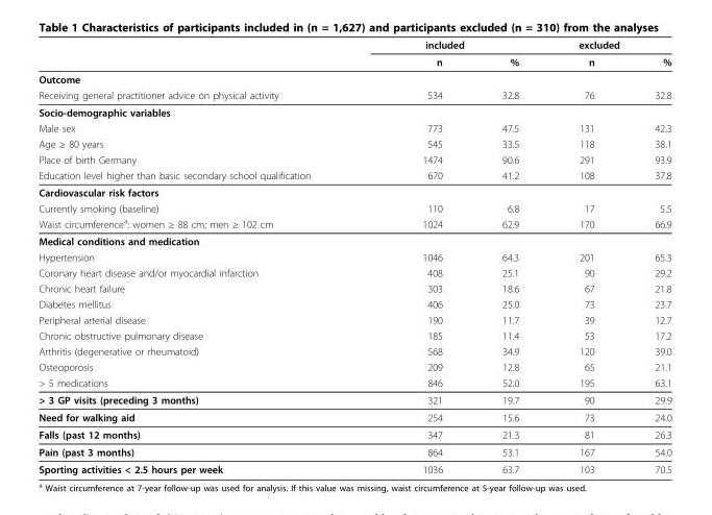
<table><thead><tr><td rowspan="2"></td><td colspan="2">included</td><td colspan="2">excluded</td></tr><tr><td>n</td><td>%</td><td>n</td><td>%</td></tr></thead><tbody><tr><td colspan="5">Outcome</td></tr><tr><td>Receiving general practitioner advice on physical activity</td><td>534</td><td>32.8</td><td>76</td><td>32.8</td></tr><tr><td colspan="5">Socio-demographic variables</td></tr><tr><td>Male sex</td><td>773</td><td>47.5</td><td>131</td><td>42.3</td></tr><tr><td>Age ≥ 80 years</td><td>545</td><td>33.5</td><td>118</td><td>38.1</td></tr><tr><td>Place of birth Germany</td><td>1474</td><td>90.6</td><td>291</td><td>93.9</td></tr><tr><td>Education level higher than basic secondary school qualification</td><td>670</td><td>41.2</td><td>108</td><td>37.8</td></tr><tr><td colspan="5">Cardiovascular risk factors</td></tr><tr><td>Currently smoking (baseline)</td><td>110</td><td>6.8</td><td>17</td><td>5.5</td></tr><tr><td>Waist circumference<sup>a</sup>: women ≥ 88 cm; men ≥ 102 cm</td><td>1024</td><td>62.9</td><td>170</td><td>66.9</td></tr><tr><td colspan="5">Medical conditions and medication</td></tr><tr><td>Hypertension</td><td>1046</td><td>64.3</td><td>201</td><td>65.3</td></tr><tr><td>Coronary heart disease and/or myocardial infarction</td><td>408</td><td>25.1</td><td>90</td><td>29.2</td></tr><tr><td>Chronic heart failure</td><td>303</td><td>18.6</td><td>67</td><td>21.8</td></tr><tr><td>Diabetes mellitus</td><td>406</td><td>25.0</td><td>73</td><td>23.7</td></tr><tr><td>Peripheral arterial disease</td><td>190</td><td>11.7</td><td>39</td><td>12.7</td></tr><tr><td>Chronic obstructive pulmonary disease</td><td>185</td><td>11.4</td><td>53</td><td>17.2</td></tr><tr><td>Arthritis (degenerative or rheumatoid)</td><td>568</td><td>34.9</td><td>120</td><td>39.0</td></tr><tr><td>Osteoporosis</td><td>209</td><td>12.8</td><td>65</td><td>21.1</td></tr><tr><td>&gt; 5 medications</td><td>846</td><td>52.0</td><td>195</td><td>63.1</td></tr><tr><td>&gt; 3 GP visits (preceding 3 months)</td><td>321</td><td>19.7</td><td>90</td><td>29.9</td></tr><tr><td>Need for walking aid</td><td>254</td><td>15.6</td><td>73</td><td>24.0</td></tr><tr><td>Falls (past 12 months)</td><td>347</td><td>21.3</td><td>81</td><td>26.3</td></tr><tr><td>Pain (past 3 months)</td><td>864</td><td>53.1</td><td>167</td><td>54.0</td></tr><tr><td>Sporting activities &lt; 2.5 hours per week</td><td>1036</td><td>63.7</td><td>103</td><td>70.5</td></tr></tbody></table>